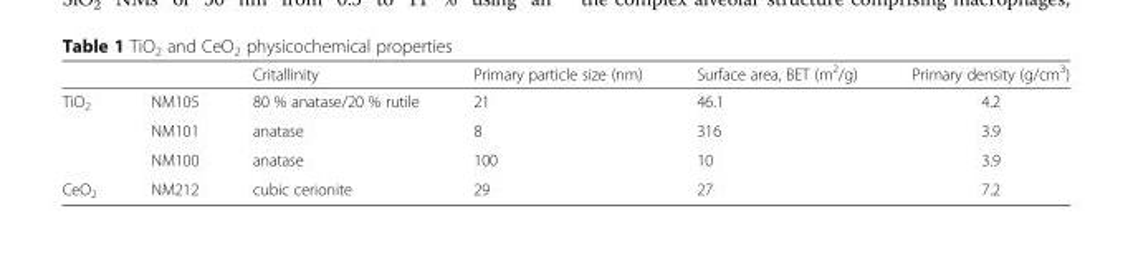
<table><thead><tr><td></td><td></td><td>Critallinity</td><td>Primary particle size (nm)</td><td>Surface area, BET (m<sup>2</sup>/g)</td><td>Primary density (g/cm<sup>3</sup>)</td></tr></thead><tbody><tr><td rowspan="3">TiO<sub>2</sub></td><td>NM105</td><td>80 % anatase/20 % rutile</td><td>21</td><td>46.1</td><td>4.2</td></tr><tr><td>NM101</td><td>anatase</td><td>8</td><td>316</td><td>3.9</td></tr><tr><td>NM100</td><td>anatase</td><td>100</td><td>10</td><td>3.9</td></tr><tr><td>CeO<sub>2</sub></td><td>NM212</td><td>cubic cerionite</td><td>29</td><td>27</td><td>7.2</td></tr></tbody></table>